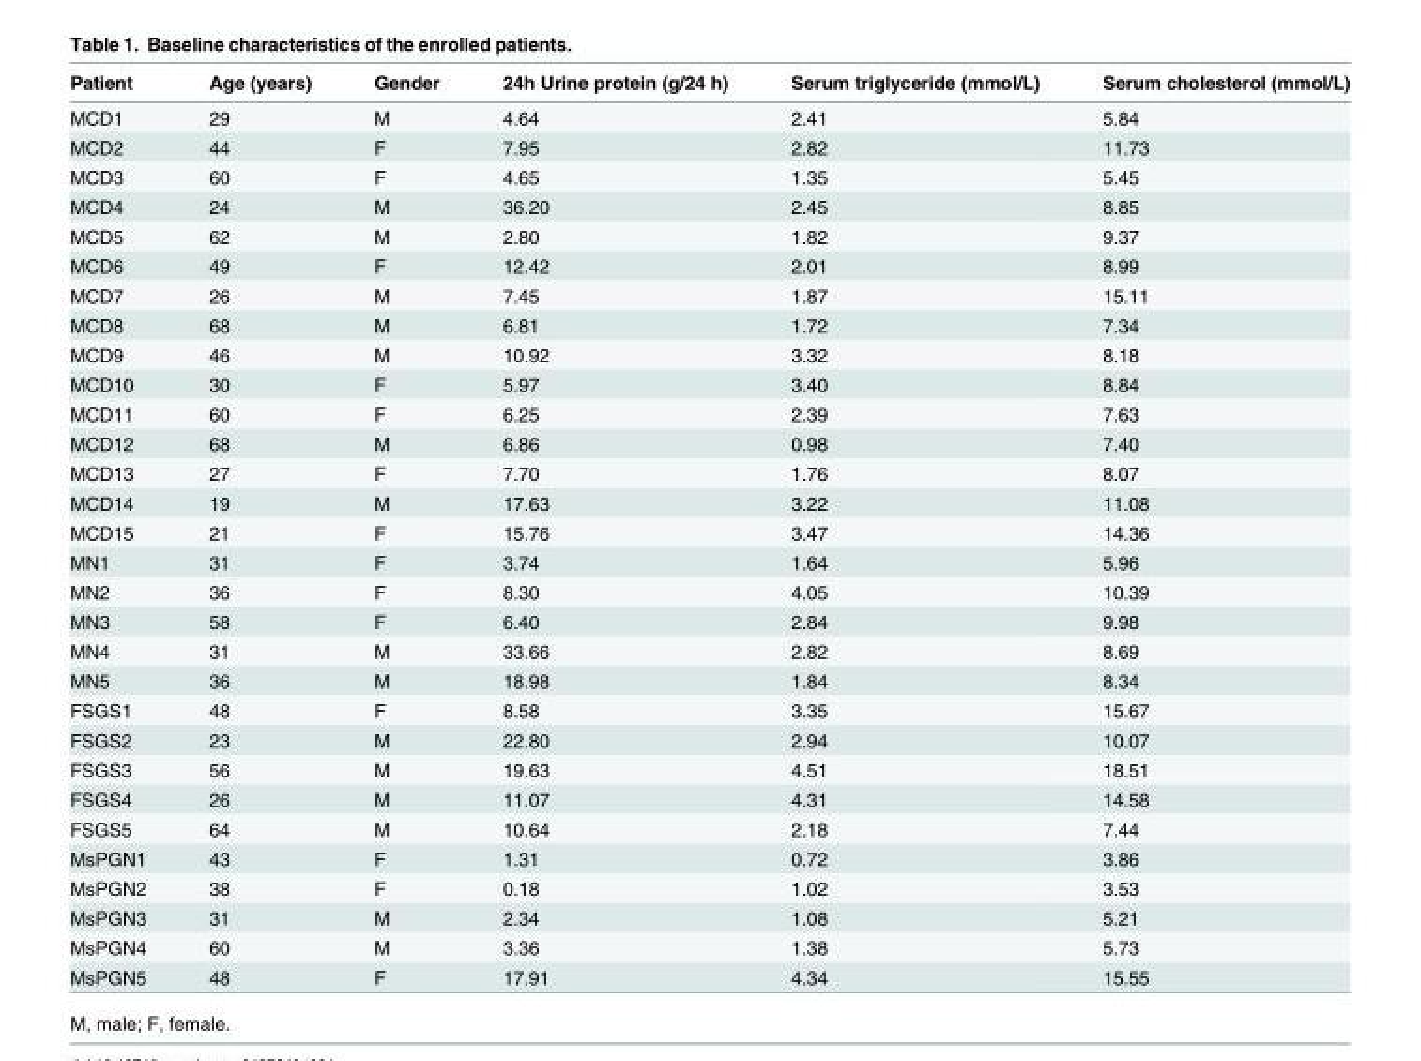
<table><thead><tr><td>Patient</td><td>Age (years)</td><td>Gender</td><td>24h Urine protein (g/24 h)</td><td>Serum triglyceride (mmol/L)</td><td>Serum cholesterol (mmol/L)</td></tr></thead><tbody><tr><td>MCD1</td><td>29</td><td>M</td><td>4.64</td><td>2.41</td><td>5.84</td></tr><tr><td>MCD2</td><td>44</td><td>F</td><td>7.95</td><td>2.82</td><td>11.73</td></tr><tr><td>MCD3</td><td>60</td><td>F</td><td>4.65</td><td>1.35</td><td>5.45</td></tr><tr><td>MCD4</td><td>24</td><td>M</td><td>36.20</td><td>2.45</td><td>8.85</td></tr><tr><td>MCD5</td><td>62</td><td>M</td><td>2.80</td><td>1.82</td><td>9.37</td></tr><tr><td>MCD6</td><td>49</td><td>F</td><td>12.42</td><td>2.01</td><td>8.99</td></tr><tr><td>MCD7</td><td>26</td><td>M</td><td>7.45</td><td>1.87</td><td>15.11</td></tr><tr><td>MCD8</td><td>68</td><td>M</td><td>6.81</td><td>1.72</td><td>7.34</td></tr><tr><td>MCD9</td><td>46</td><td>M</td><td>10.92</td><td>3.32</td><td>8.18</td></tr><tr><td>MCD10</td><td>30</td><td>F</td><td>5.97</td><td>3.40</td><td>8.84</td></tr><tr><td>MCD11</td><td>60</td><td>F</td><td>6.25</td><td>2.39</td><td>7.63</td></tr><tr><td>MCD12</td><td>68</td><td>M</td><td>6.86</td><td>0.98</td><td>7.40</td></tr><tr><td>MCD13</td><td>27</td><td>F</td><td>7.70</td><td>1.76</td><td>8.07</td></tr><tr><td>MCD14</td><td>19</td><td>M</td><td>17.63</td><td>3.22</td><td>11.08</td></tr><tr><td>MCD15</td><td>21</td><td>F</td><td>15.76</td><td>3.47</td><td>14.36</td></tr><tr><td>MN1</td><td>31</td><td>F</td><td>3.74</td><td>1.64</td><td>5.96</td></tr><tr><td>MN2</td><td>36</td><td>F</td><td>8.30</td><td>4.05</td><td>10.39</td></tr><tr><td>MN3</td><td>58</td><td>F</td><td>6.40</td><td>2.84</td><td>9.98</td></tr><tr><td>MN4</td><td>31</td><td>M</td><td>33.66</td><td>2.82</td><td>8.69</td></tr><tr><td>MN5</td><td>36</td><td>M</td><td>18.98</td><td>1.84</td><td>8.34</td></tr><tr><td>FSGS1</td><td>48</td><td>F</td><td>8.58</td><td>3.35</td><td>15.67</td></tr><tr><td>FSGS2</td><td>23</td><td>M</td><td>22.80</td><td>2.94</td><td>10.07</td></tr><tr><td>FSGS3</td><td>56</td><td>M</td><td>19.63</td><td>4.51</td><td>18.51</td></tr><tr><td>FSGS4</td><td>26</td><td>M</td><td>11.07</td><td>4.31</td><td>14.58</td></tr><tr><td>FSGS5</td><td>64</td><td>M</td><td>10.64</td><td>2.18</td><td>7.44</td></tr><tr><td>MsPGN1</td><td>43</td><td>F</td><td>1.31</td><td>0.72</td><td>3.86</td></tr><tr><td>MsPGN2</td><td>38</td><td>F</td><td>0.18</td><td>1.02</td><td>3.53</td></tr><tr><td>MsPGN3</td><td>31</td><td>M</td><td>2.34</td><td>1.08</td><td>5.21</td></tr><tr><td>MsPGN4</td><td>60</td><td>M</td><td>3.36</td><td>1.38</td><td>5.73</td></tr><tr><td>MsPGN5</td><td>48</td><td>F</td><td>17.91</td><td>4.34</td><td>15.55</td></tr></tbody></table>